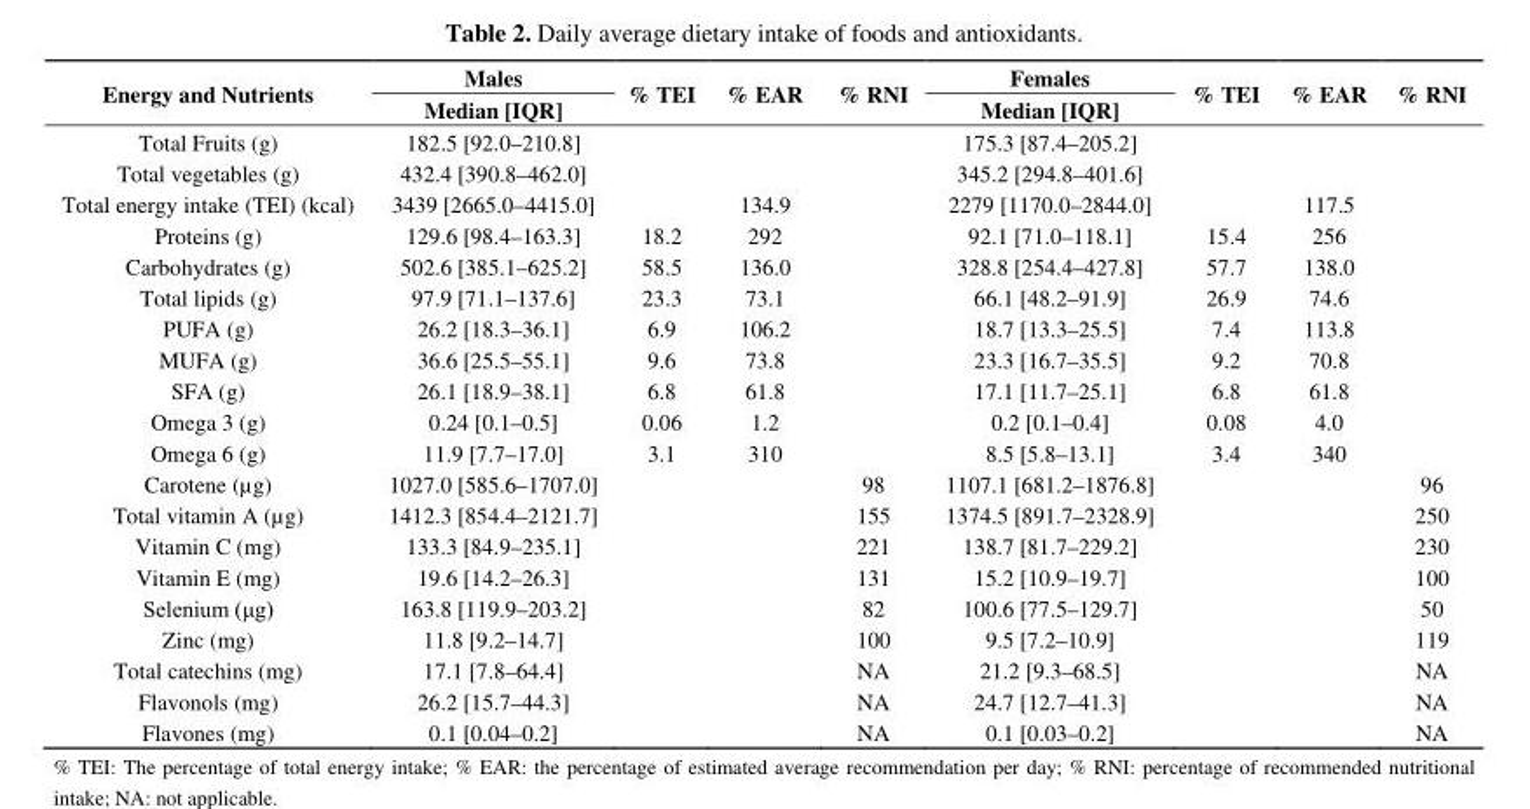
<table><thead><tr><td rowspan="2">Energy and Nutrients</td><td rowspan="2">Males Median [IQR]</td><td rowspan="2">% TEI</td><td rowspan="2">% EAR</td><td rowspan="2">% RNI</td><td rowspan="2">Females Median [IQR]</td><td rowspan="2">% TEI</td><td rowspan="2">% EAR</td><td rowspan="2">% RNI</td></tr><tr></tr></thead><tbody><tr><td>Total Fruits (g)</td><td>182.5 [92.0–210.8]</td><td></td><td></td><td></td><td>175.3 [87.4–205.2]</td><td></td><td></td><td></td></tr><tr><td>Total vegetables (g)</td><td>432.4 [390.8–462.0]</td><td></td><td></td><td></td><td>345.2 [294.8–401.6]</td><td></td><td></td><td></td></tr><tr><td>Total energy intake (TEI) (kcal)</td><td>3439 [2665.0–4415.0]</td><td></td><td>134.9</td><td></td><td>2279 [1170.0–2844.0]</td><td></td><td>117.5</td><td></td></tr><tr><td>Proteins (g)</td><td>129.6 [98.4–163.3]</td><td>18.2</td><td>292</td><td></td><td>92.1 [71.0–118.1]</td><td>15.4</td><td>256</td><td></td></tr><tr><td>Carbohydrates (g)</td><td>502.6 [385.1–625.2]</td><td>58.5</td><td>136.0</td><td></td><td>328.8 [254.4–427.8]</td><td>57.7</td><td>138.0</td><td></td></tr><tr><td>Total lipids (g)</td><td>97.9 [71.1–137.6]</td><td>23.3</td><td>73.1</td><td></td><td>66.1 [48.2–91.9]</td><td>26.9</td><td>74.6</td><td></td></tr><tr><td>PUFA (g)</td><td>26.2 [18.3–36.1]</td><td>6.9</td><td>106.2</td><td></td><td>18.7 [13.3–25.5]</td><td>7.4</td><td>113.8</td><td></td></tr><tr><td>MUFA (g)</td><td>36.6 [25.5–55.1]</td><td>9.6</td><td>73.8</td><td></td><td>23.3 [16.7–35.5]</td><td>9.2</td><td>70.8</td><td></td></tr><tr><td>SFA (g)</td><td>26.1 [18.9–38.1]</td><td>6.8</td><td>61.8</td><td></td><td>17.1 [11.7–25.1]</td><td>6.8</td><td>61.8</td><td></td></tr><tr><td>Omega 3 (g)</td><td>0.24 [0.1–0.5]</td><td>0.06</td><td>1.2</td><td></td><td>0.2 [0.1–0.4]</td><td>0.08</td><td>4.0</td><td></td></tr><tr><td>Omega 6 (g)</td><td>11.9 [7.7–17.0]</td><td>3.1</td><td>310</td><td></td><td>8.5 [5.8–13.1]</td><td>3.4</td><td>340</td><td></td></tr><tr><td>Carotene (µg)</td><td>1027.0 [585.6–1707.0]</td><td></td><td></td><td>98</td><td>1107.1 [681.2–1876.8]</td><td></td><td></td><td>96</td></tr><tr><td>Total vitamin A (µg)</td><td>1412.3 [854.4–2121.7]</td><td></td><td></td><td>155</td><td>1374.5 [891.7–2328.9]</td><td></td><td></td><td>250</td></tr><tr><td>Vitamin C (mg)</td><td>133.3 [84.9–235.1]</td><td></td><td></td><td>221</td><td>138.7 [81.7–229.2]</td><td></td><td></td><td>230</td></tr><tr><td>Vitamin E (mg)</td><td>19.6 [14.2–26.3]</td><td></td><td></td><td>131</td><td>15.2 [10.9–19.7]</td><td></td><td></td><td>100</td></tr><tr><td>Selenium (μg)</td><td>163.8 [119.9–203.2]</td><td></td><td></td><td>82</td><td>100.6 [77.5–129.7]</td><td></td><td></td><td>50</td></tr><tr><td>Zinc (mg)</td><td>11.8 [9.2–14.7]</td><td></td><td></td><td>100</td><td>9.5 [7.2–10.9]</td><td></td><td></td><td>119</td></tr><tr><td>Total catechins (mg)</td><td>17.1 [7.8–64.4]</td><td></td><td></td><td>NA</td><td>21.2 [9.3–68.5]</td><td></td><td></td><td>NA</td></tr><tr><td>Flavonols (mg)</td><td>26.2 [15.7–44.3]</td><td></td><td></td><td>NA</td><td>24.7 [12.7–41.3]</td><td></td><td></td><td>NA</td></tr><tr><td>Flavones (mg)</td><td>0.1 [0.04–0.2]</td><td></td><td></td><td>NA</td><td>0.1 [0.03–0.2]</td><td></td><td></td><td>NA</td></tr></tbody></table>